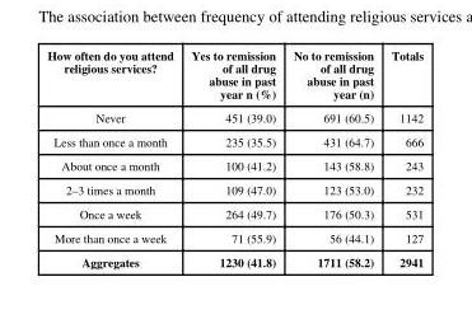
<table><thead><tr><td>How often do you attend religious services?</td><td>Yes to remission of all drug abuse in past year n (%)</td><td>No to remission of all drug abuse in past year (n)</td><td>Totals</td></tr></thead><tbody><tr><td>Never</td><td>451 (39.0)</td><td>691 (60.5)</td><td>1142</td></tr><tr><td>Less than once a month</td><td>235 (35.5)</td><td>431 (64.7)</td><td>666</td></tr><tr><td>About once a month</td><td>100 (41.2)</td><td>143 (58.8)</td><td>243</td></tr><tr><td>2–3 times a month</td><td>109 (47.0)</td><td>123 (53.0)</td><td>232</td></tr><tr><td>Once a week</td><td>264 (49.7)</td><td>176 (50.3)</td><td>531</td></tr><tr><td>More than once a week</td><td>71 (55.9)</td><td>56 (44.1)</td><td>127</td></tr><tr><td>Aggregates</td><td>1230 (41.8)</td><td>1711 (58.2)</td><td>2941</td></tr></tbody></table>